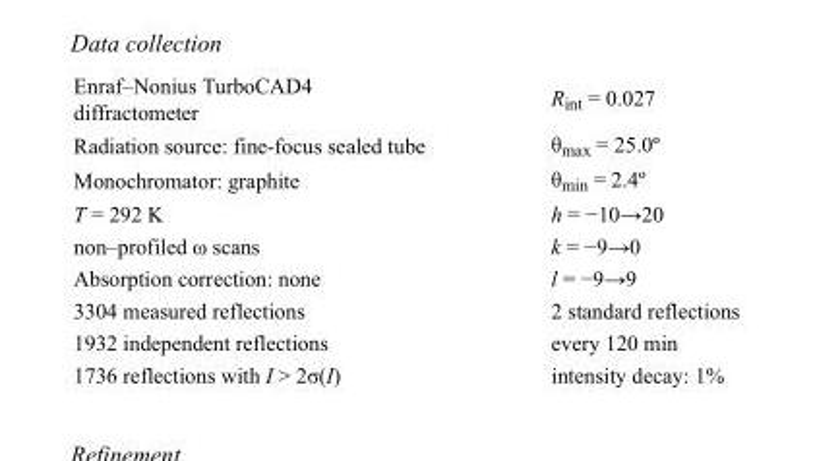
<table><tbody><tr><td>Enraf–Nonius TurboCAD4 diffractometer</td><td>R<sub>int</sub> = 0.027</td></tr><tr><td>Radiation source: fine-focus sealed tube</td><td>θ<sub>max</sub> = 25.0º</td></tr><tr><td>Monochromator: graphite</td><td>θ<sub>min</sub> = 2.4º</td></tr><tr><td>T = 292 K</td><td>h = −10→20</td></tr><tr><td>non–profiled ω scans</td><td>k = −9→0</td></tr><tr><td>Absorption correction: none</td><td>l = −9→9</td></tr><tr><td>3304 measured reflections</td><td>2 standard reflections</td></tr><tr><td>1932 independent reflections</td><td>every 120 min</td></tr><tr><td>1736 reflections with I &gt; 2σ(I)</td><td>intensity decay: 1%</td></tr></tbody></table>